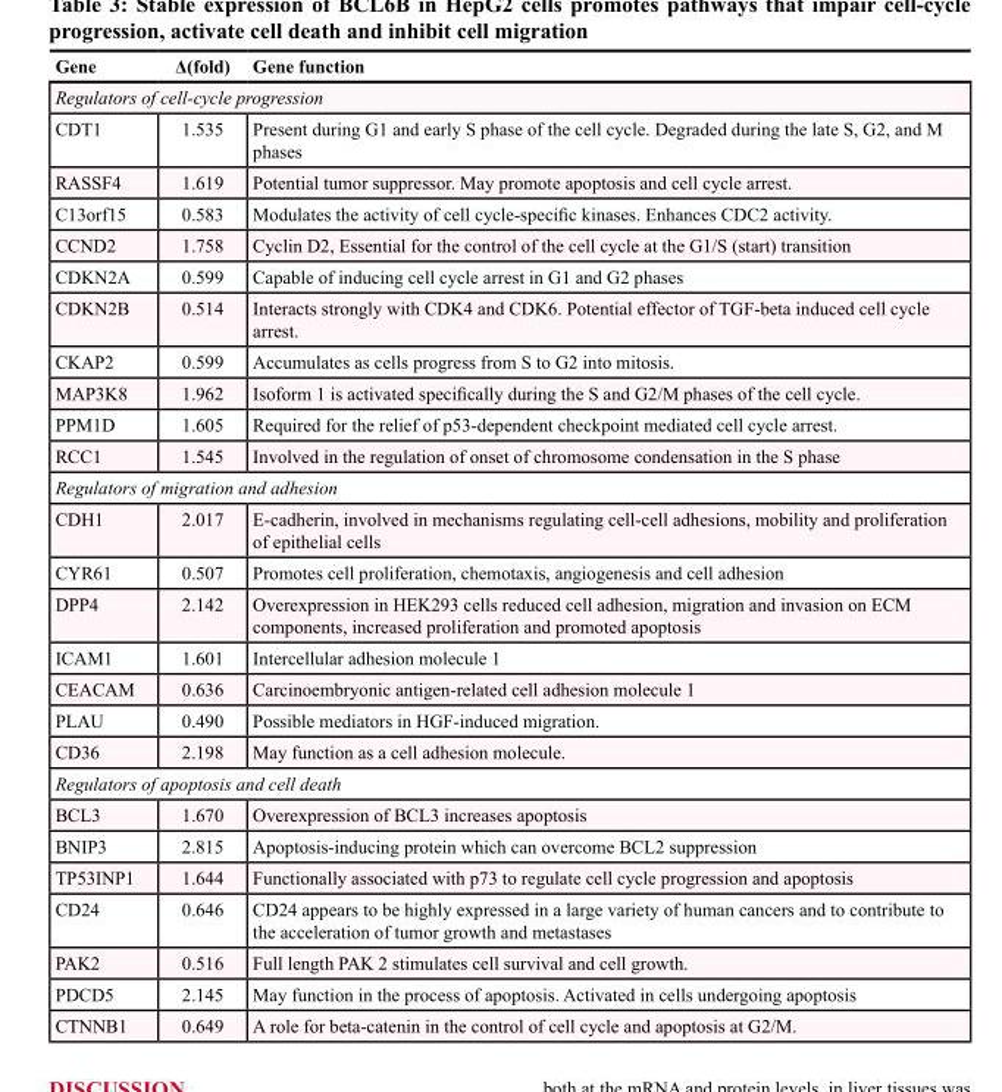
<table><thead><tr><td>Gene</td><td>Δ(fold)</td><td>Gene function</td></tr></thead><tbody><tr><td colspan="3">Regulators of cell-cycle progression</td></tr><tr><td>CDT1</td><td>1.535</td><td>Present during G1 and early S phase of the cell cycle. Degraded during the late S, G2, and M phases</td></tr><tr><td>RASSF4</td><td>1.619</td><td>Potential tumor suppressor. May promote apoptosis and cell cycle arrest.</td></tr><tr><td>C13orf15</td><td>0.583</td><td>Modulates the activity of cell cycle-specific kinases. Enhances CDC2 activity.</td></tr><tr><td>CCND2</td><td>1.758</td><td>Cyclin D2, Essential for the control of the cell cycle at the G1/S (start) transition</td></tr><tr><td>CDKN2A</td><td>0.599</td><td>Capable of inducing cell cycle arrest in G1 and G2 phases</td></tr><tr><td>CDKN2B</td><td>0.514</td><td>Interacts strongly with CDK4 and CDK6. Potential effector of TGF-beta induced cell cycle arrest.</td></tr><tr><td>CKAP2</td><td>0.599</td><td>Accumulates as cells progress from S to G2 into mitosis.</td></tr><tr><td>MAP3K8</td><td>1.962</td><td>Isoform 1 is activated specifically during the S and G2/M phases of the cell cycle.</td></tr><tr><td>PPM1D</td><td>1.605</td><td>Required for the relief of p53-dependent checkpoint mediated cell cycle arrest.</td></tr><tr><td>RCC1</td><td>1.545</td><td>Involved in the regulation of onset of chromosome condensation in the S phase</td></tr><tr><td colspan="3">Regulators of migration and adhesion</td></tr><tr><td>CDH1</td><td>2.017</td><td>E-cadherin, involved in mechanisms regulating cell-cell adhesions, mobility and proliferation of epithelial cells</td></tr><tr><td>CYR61</td><td>0.507</td><td>Promotes cell proliferation, chemotaxis, angiogenesis and cell adhesion</td></tr><tr><td>DPP4</td><td>2.142</td><td>Overexpression in HEK293 cells reduced cell adhesion, migration and invasion on ECM components, increased proliferation and promoted apoptosis</td></tr><tr><td>ICAM1</td><td>1.601</td><td>Intercellular adhesion molecule 1</td></tr><tr><td>CEACAM</td><td>0.636</td><td>Carcinoembryonic antigen-related cell adhesion molecule 1</td></tr><tr><td>PLAU</td><td>0.490</td><td>Possible mediators in HGF-induced migration.</td></tr><tr><td>CD36</td><td>2.198</td><td>May function as a cell adhesion molecule.</td></tr><tr><td colspan="3">Regulators of apoptosis and cell death</td></tr><tr><td>BCL3</td><td>1.670</td><td>Overexpression of BCL3 increases apoptosis</td></tr><tr><td>BNIP3</td><td>2.815</td><td>Apoptosis-inducing protein which can overcome BCL2 suppression</td></tr><tr><td>TP53INP1</td><td>1.644</td><td>Functionally associated with p73 to regulate cell cycle progression and apoptosis</td></tr><tr><td>CD24</td><td>0.646</td><td>CD24 appears to be highly expressed in a large variety of human cancers and to contribute to the acceleration of tumor growth and metastases</td></tr><tr><td>PAK2</td><td>0.516</td><td>Full length PAK 2 stimulates cell survival and cell growth.</td></tr><tr><td>PDCD5</td><td>2.145</td><td>May function in the process of apoptosis. Activated in cells undergoing apoptosis</td></tr><tr><td>CTNNB1</td><td>0.649</td><td>A role for beta-catenin in the control of cell cycle and apoptosis at G2/M.</td></tr></tbody></table>